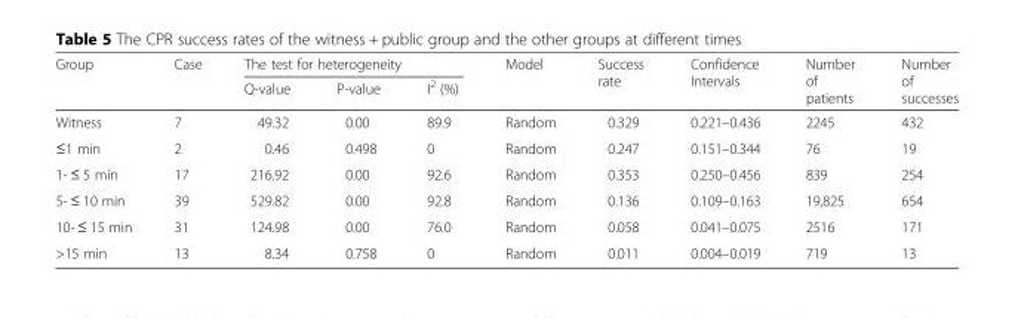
<table><thead><tr><td rowspan="2">Group</td><td rowspan="2">Case</td><td colspan="3">The test for heterogeneity</td><td rowspan="2">Model</td><td rowspan="2">Success rate</td><td rowspan="2">Confidence Intervals</td><td rowspan="2">Number of patients</td><td rowspan="2">Number of successes</td></tr><tr><td>Q-value</td><td>P-value</td><td>I<sup>2</sup> (%)</td></tr></thead><tbody><tr><td>Witness</td><td>7</td><td>49.32</td><td>0.00</td><td>89.9</td><td>Random</td><td>0.329</td><td>0.221–0.436</td><td>2245</td><td>432</td></tr><tr><td>≤1 min</td><td>2</td><td>0.46</td><td>0.498</td><td>0</td><td>Random</td><td>0.247</td><td>0.151–0.344</td><td>76</td><td>19</td></tr><tr><td>1- ≤ 5 min</td><td>17</td><td>216.92</td><td>0.00</td><td>92.6</td><td>Random</td><td>0.353</td><td>0.250–0.456</td><td>839</td><td>254</td></tr><tr><td>5- ≤ 10 min</td><td>39</td><td>529.82</td><td>0.00</td><td>92.8</td><td>Random</td><td>0.136</td><td>0.109–0.163</td><td>19,825</td><td>654</td></tr><tr><td>10- ≤ 15 min</td><td>31</td><td>124.98</td><td>0.00</td><td>76.0</td><td>Random</td><td>0.058</td><td>0.041–0.075</td><td>2516</td><td>171</td></tr><tr><td>&gt;15 min</td><td>13</td><td>8.34</td><td>0.758</td><td>0</td><td>Random</td><td>0.011</td><td>0.004–0.019</td><td>719</td><td>13</td></tr></tbody></table>